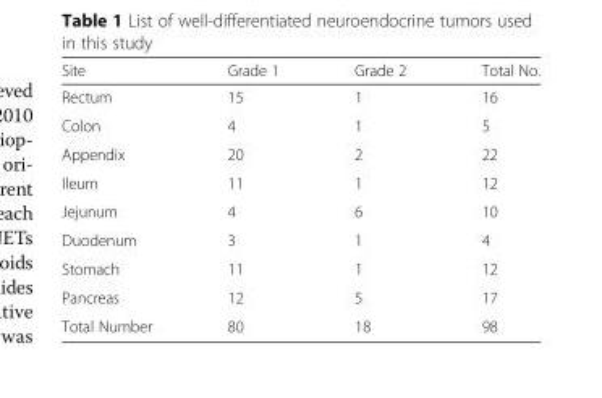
<table><thead><tr><td>Site</td><td>Grade 1</td><td>Grade 2</td><td>Total No.</td></tr></thead><tbody><tr><td>Rectum</td><td>15</td><td>1</td><td>16</td></tr><tr><td>Colon</td><td>4</td><td>1</td><td>5</td></tr><tr><td>Appendix</td><td>20</td><td>2</td><td>22</td></tr><tr><td>Ileum</td><td>11</td><td>1</td><td>12</td></tr><tr><td>Jejunum</td><td>4</td><td>6</td><td>10</td></tr><tr><td>Duodenum</td><td>3</td><td>1</td><td>4</td></tr><tr><td>Stomach</td><td>11</td><td>1</td><td>12</td></tr><tr><td>Pancreas</td><td>12</td><td>5</td><td>17</td></tr><tr><td>Total Number</td><td>80</td><td>18</td><td>98</td></tr></tbody></table>